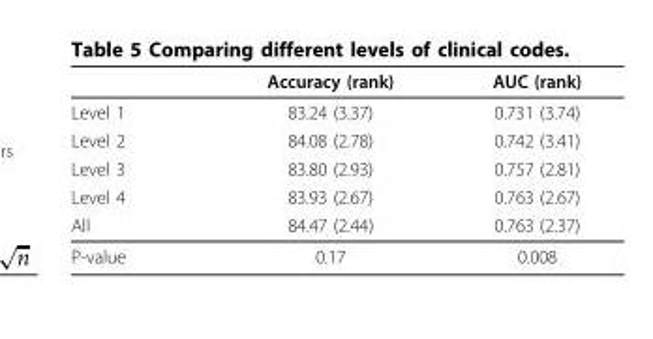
<table><thead><tr><td></td><td>Accuracy (rank)</td><td>AUC (rank)</td></tr></thead><tbody><tr><td>Level 1</td><td>83.24 (3.37)</td><td>0.731 (3.74)</td></tr><tr><td>Level 2</td><td>84.08 (2.78)</td><td>0.742 (3.41)</td></tr><tr><td>Level 3</td><td>83.80 (2.93)</td><td>0.757 (2.81)</td></tr><tr><td>Level 4</td><td>83.93 (2.67)</td><td>0.763 (2.67)</td></tr><tr><td>All</td><td>84.47 (2.44)</td><td>0.763 (2.37)</td></tr><tr><td>P-value</td><td>0.17</td><td>0.008</td></tr></tbody></table>